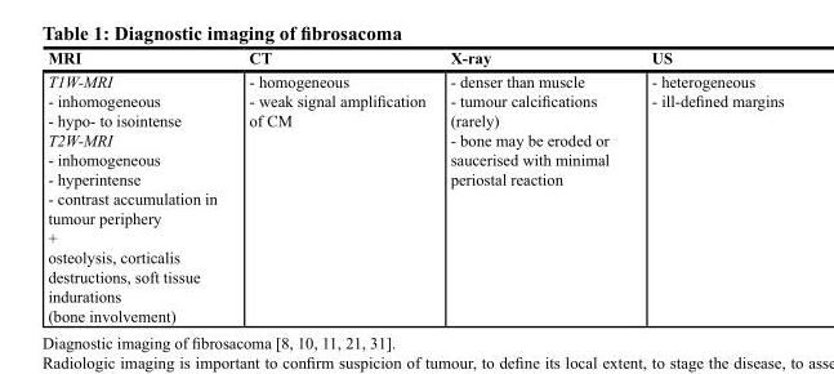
<table><thead><tr><td>MRI</td><td>CT</td><td>X-ray</td><td>US</td></tr></thead><tbody><tr><td>T1W-MRI - inhomogeneous - hypo- to isointense T2W-MRI - inhomogeneous - hyperintense - contrast accumulation in tumour periphery + osteolysis, corticalis destructions, soft tissue indurations (bone involvement)</td><td>- homogeneous - weak signal amplification of CM</td><td>- denser than muscle - tumour calcifications (rarely) - bone may be eroded or saucerised with minimal periostal reaction</td><td>- heterogeneous - ill-defined margins</td></tr></tbody></table>